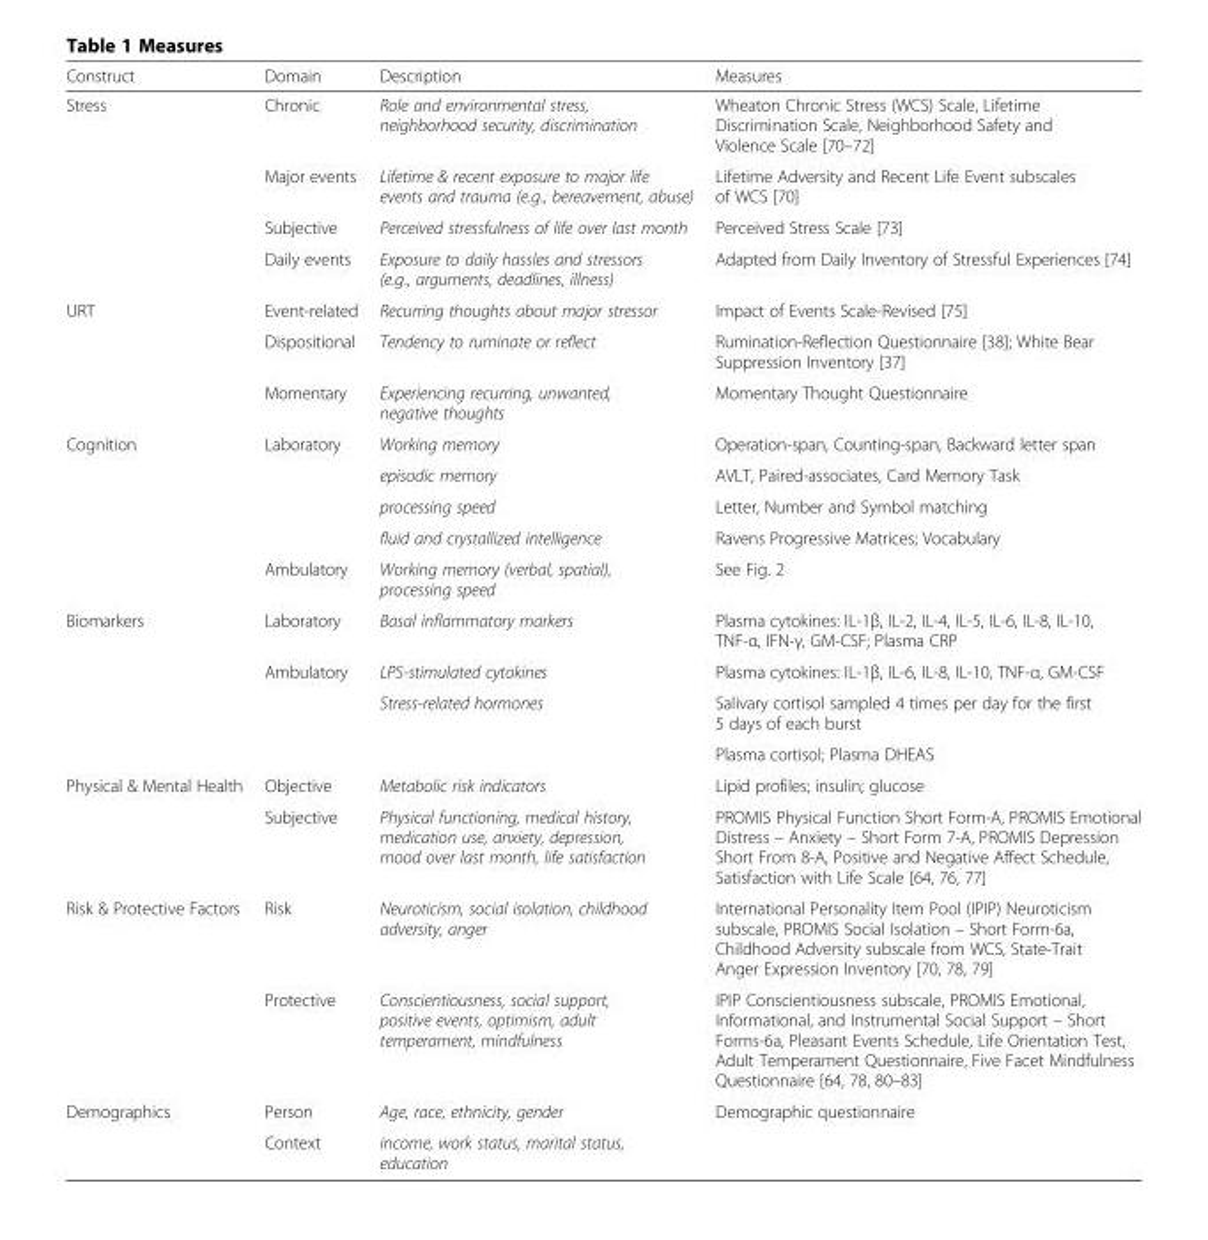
<table><thead><tr><td>Construct</td><td>Domain</td><td>Description</td><td>Measures</td></tr></thead><tbody><tr><td rowspan="4">Stress</td><td>Chronic</td><td>Role and environmental stress, neighborhood security, discrimination</td><td>Wheaton Chronic Stress (WCS) Scale, Lifetime Discrimination Scale, Neighborhood Safety and Violence Scale [70–72]</td></tr><tr><td>Major events</td><td>Lifetime &amp; recent exposure to major life events and trauma (e.g., bereavement, abuse)</td><td>Lifetime Adversity and Recent Life Event subscales of WCS [70]</td></tr><tr><td>Subjective</td><td>Perceived stressfulness of life over last month</td><td>Perceived Stress Scale [73]</td></tr><tr><td>Daily events</td><td>Exposure to daily hassles and stressors (e.g., arguments, deadlines, illness)</td><td>Adapted from Daily Inventory of Stressful Experiences [74]</td></tr><tr><td rowspan="3">URT</td><td>Event-related</td><td>Recurring thoughts about major stressor</td><td>Impact of Events Scale-Revised [75]</td></tr><tr><td>Dispositional</td><td>Tendency to ruminate or reflect</td><td>Rumination-Reflection Questionnaire [38]; White Bear Suppression Inventory [37]</td></tr><tr><td>Momentary</td><td>Experiencing recurring, unwanted, negative thoughts</td><td>Momentary Thought Questionnaire</td></tr><tr><td rowspan="5">Cognition</td><td rowspan="4">Laboratory</td><td>Working memory</td><td>Operation-span, Counting-span, Backward letter span</td></tr><tr><td>episodic memory</td><td>AVLT, Paired-associates, Card Memory Task</td></tr><tr><td>processing speed</td><td>Letter, Number and Symbol matching</td></tr><tr><td>fluid and crystallized intelligence</td><td>Ravens Progressive Matrices; Vocabulary</td></tr><tr><td>Ambulatory</td><td>Working memory (verbal, spatial), processing speed</td><td>See Fig. 2</td></tr><tr><td rowspan="4">Biomarkers</td><td>Laboratory</td><td>Basal inflammatory markers</td><td>Plasma cytokines: IL-1β, IL-2, IL-4, IL-5, IL-6, IL-8, IL-10, TNF-α, IFN-γ, GM-CSF; Plasma CRP</td></tr><tr><td rowspan="3">Ambulatory</td><td>LPS-stimulated cytokines</td><td>Plasma cytokines: IL-1β, IL-6, IL-8, IL-10, TNF-α, GM-CSF</td></tr><tr><td rowspan="2">Stress-related hormones</td><td>Salivary cortisol sampled 4 times per day for the first 5 days of each burst</td></tr><tr><td>Plasma cortisol; Plasma DHEAS</td></tr><tr><td rowspan="2">Physical &amp; Mental Health</td><td>Objective</td><td>Metabolic risk indicators</td><td>Lipid profiles; insulin; glucose</td></tr><tr><td>Subjective</td><td>Physical functioning, medical history, medication use, anxiety, depression, mood over last month, life satisfaction</td><td>PROMIS Physical Function Short Form-A, PROMIS Emotional Distress – Anxiety – Short Form 7-A, PROMIS Depression Short From 8-A, Positive and Negative Affect Schedule, Satisfaction with Life Scale [64, 76, 77]</td></tr><tr><td rowspan="2">Risk &amp; Protective Factors</td><td>Risk</td><td>Neuroticism, social isolation, childhood adversity, anger</td><td>International Personality Item Pool (IPIP) Neuroticism subscale, PROMIS Social Isolation – Short Form-6a, Childhood Adversity subscale from WCS, State-Trait Anger Expression Inventory [70, 78, 79]</td></tr><tr><td>Protective</td><td>Conscientiousness, social support, positive events, optimism, adult temperament, mindfulness</td><td>IPIP Conscientiousness subscale, PROMIS Emotional, Informational, and Instrumental Social Support – Short Forms-6a, Pleasant Events Schedule, Life Orientation Test, Adult Temperament Questionnaire, Five Facet Mindfulness Questionnaire [64, 78, 80–83]</td></tr><tr><td rowspan="2">Demographics</td><td>Person</td><td>Age, race, ethnicity, gender</td><td>Demographic questionnaire</td></tr><tr><td>Context</td><td>income, work status, marital status, education</td><td></td></tr></tbody></table>